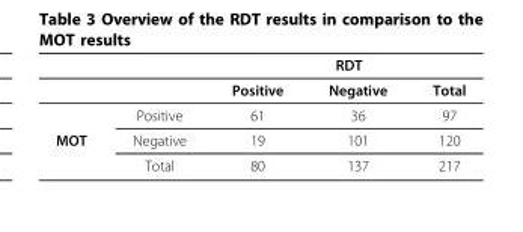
<table><thead><tr><td rowspan="2"></td><td rowspan="2"></td><td colspan="3">RDT</td></tr><tr><td>Positive</td><td>Negative</td><td>Total</td></tr></thead><tbody><tr><td></td><td>Positive</td><td>61</td><td>36</td><td>97</td></tr><tr><td rowspan="2">MOT</td><td>Negative</td><td>19</td><td>101</td><td>120</td></tr><tr><td>Total</td><td>80</td><td>137</td><td>217</td></tr></tbody></table>